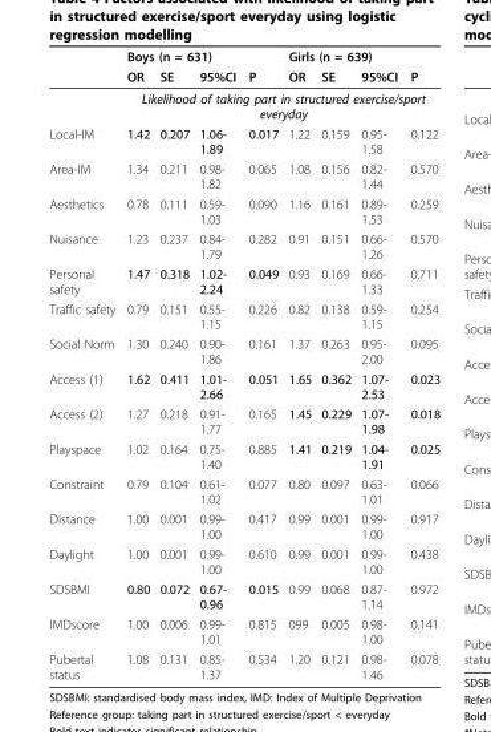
<table><thead><tr><td rowspan="2"></td><td colspan="3">Boys (n = 631)</td><td rowspan="2">P</td><td colspan="3">Girls (n = 639)</td><td rowspan="2">P</td></tr><tr><td>OR</td><td>SE</td><td>95%CI</td><td>OR</td><td>SE</td><td>95%CI</td></tr></thead><tbody><tr><td></td><td colspan="8">Likelihood of taking part in structured exercise/sport everyday</td></tr><tr><td>Local-IM</td><td>1.42</td><td>0.207</td><td>1.06- 1.89</td><td>0.017</td><td>1.22</td><td>0.159</td><td>0.95- 1.58</td><td>0.122</td></tr><tr><td>Area-IM</td><td>1.34</td><td>0.211</td><td>0.98- 1.82</td><td>0.065</td><td>1.08</td><td>0.156</td><td>0.82- 1.44</td><td>0.570</td></tr><tr><td>Aesthetics</td><td>0.78</td><td>0.111</td><td>0.59- 1.03</td><td>0.090</td><td>1.16</td><td>0.161</td><td>0.89- 1.53</td><td>0.259</td></tr><tr><td>Nuisance</td><td>1.23</td><td>0.237</td><td>0.84- 1.79</td><td>0.282</td><td>0.91</td><td>0.151</td><td>0.66- 1.26</td><td>0.570</td></tr><tr><td>Personal safety</td><td>1.47</td><td>0.318</td><td>1.02- 2.24</td><td>0.049</td><td>0.93</td><td>0.169</td><td>0.66- 1.33</td><td>0.711</td></tr><tr><td>Traffic safety</td><td>0.79</td><td>0.151</td><td>0.55- 1.15</td><td>0.226</td><td>0.82</td><td>0.138</td><td>0.59- 1.15</td><td>0.254</td></tr><tr><td>Social Norm</td><td>1.30</td><td>0.240</td><td>0.90- 1.86</td><td>0.161</td><td>1.37</td><td>0.263</td><td>0.95- 2.00</td><td>0.095</td></tr><tr><td>Access (1)</td><td>1.62</td><td>0.411</td><td>1.01- 2.66</td><td>0.051</td><td>1.65</td><td>0.362</td><td>1.07- 2.53</td><td>0.023</td></tr><tr><td>Access (2)</td><td>1.27</td><td>0.218</td><td>0.91- 1.77</td><td>0.165</td><td>1.45</td><td>0.229</td><td>1.07- 1.98</td><td>0.018</td></tr><tr><td>Playspace</td><td>1.02</td><td>0.164</td><td>0.75- 1.40</td><td>0.885</td><td>1.41</td><td>0.219</td><td>1.04- 1.91</td><td>0.025</td></tr><tr><td>Constraint</td><td>0.79</td><td>0.104</td><td>0.61- 1.02</td><td>0.077</td><td>0.80</td><td>0.097</td><td>0.63- 1.01</td><td>0.066</td></tr><tr><td>Distance</td><td>1.00</td><td>0.001</td><td>0.99- 1.00</td><td>0.417</td><td>0.99</td><td>0.001</td><td>0.99- 1.00</td><td>0.917</td></tr><tr><td>Daylight</td><td>1.00</td><td>0.001</td><td>0.99- 1.00</td><td>0.610</td><td>0.99</td><td>0.001</td><td>0.99- 1.00</td><td>0.438</td></tr><tr><td>SDSBMI</td><td>0.80</td><td>0.072</td><td>0.67- 0.96</td><td>0.015</td><td>0.99</td><td>0.068</td><td>0.87- 1.14</td><td>0.972</td></tr><tr><td>IMDscore</td><td>1.00</td><td>0.006</td><td>0.99- 1.01</td><td>0.815</td><td>099</td><td>0.005</td><td>0.98- 1.00</td><td>0.141</td></tr><tr><td>Pubertal status</td><td>1.08</td><td>0.131</td><td>0.85- 1.37</td><td>0.534</td><td>1.20</td><td>0.121</td><td>0.98- 1.46</td><td>0.078</td></tr></tbody></table>